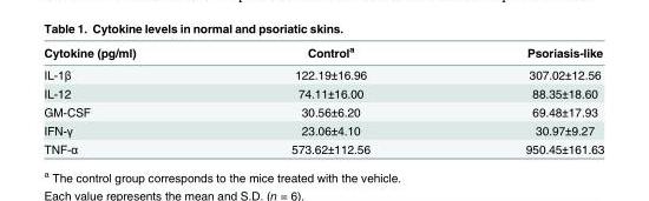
<table><thead><tr><td>Cytokine (pg/ml)</td><td>Control<sup>a</sup></td><td>Psoriasis-like</td></tr></thead><tbody><tr><td>IL-1β</td><td>122.19±16.96</td><td>307.02±12.56</td></tr><tr><td>IL-12</td><td>74.11±16.00</td><td>88.35±18.60</td></tr><tr><td>GM-CSF</td><td>30.56±6.20</td><td>69.48±17.93</td></tr><tr><td>IFN-γ</td><td>23.06±4.10</td><td>30.97±9.27</td></tr><tr><td>TNF-α</td><td>573.62±112.56</td><td>950.45±161.63</td></tr></tbody></table>